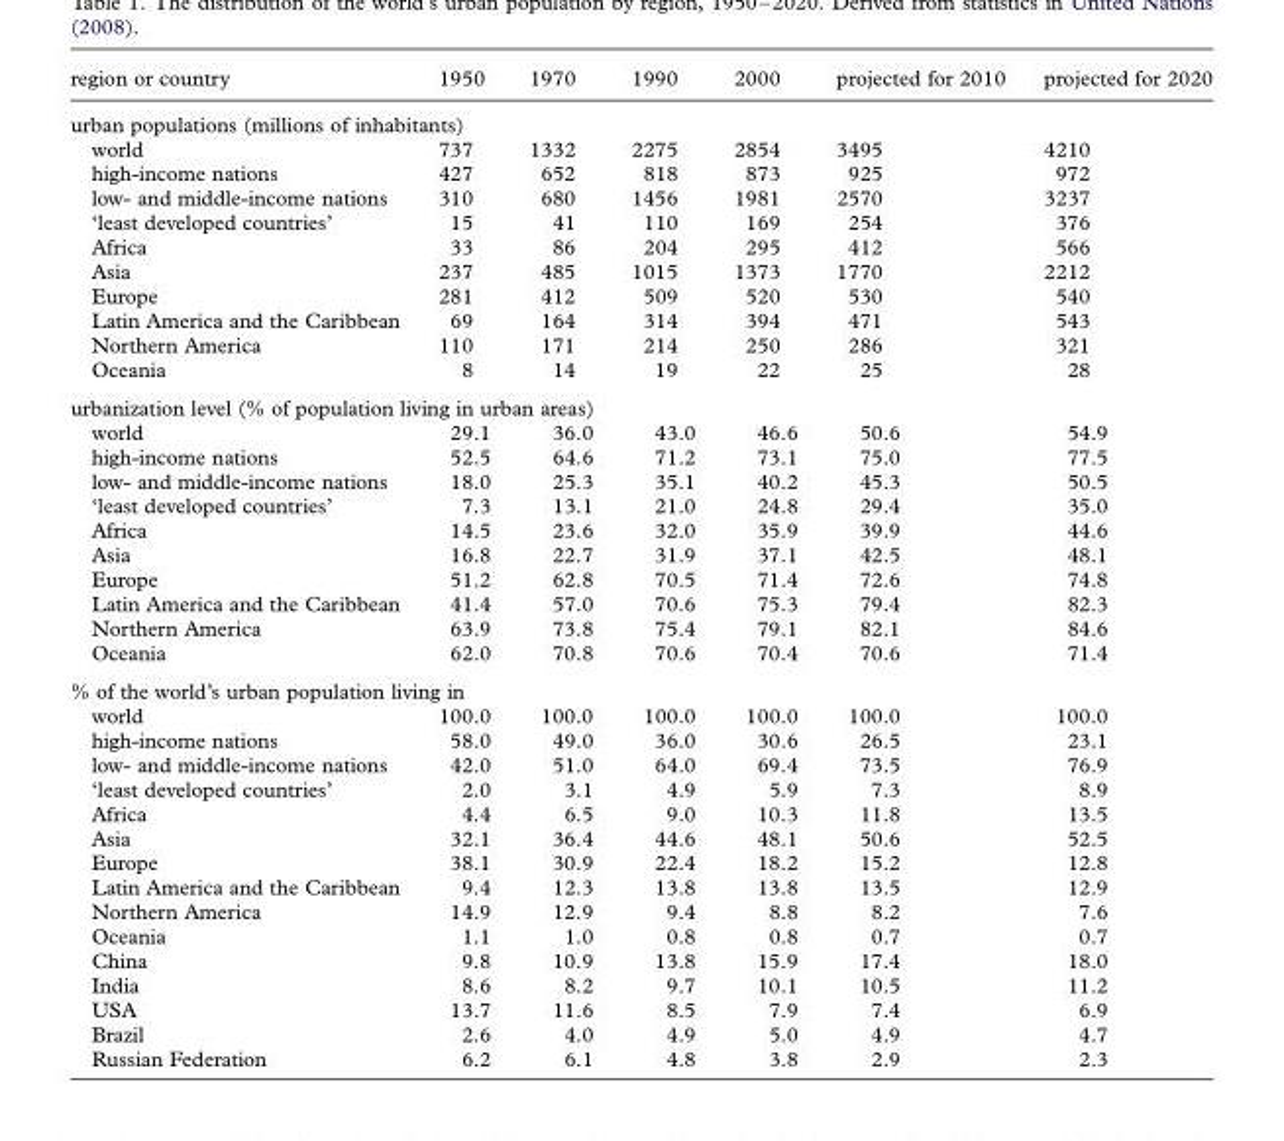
<table><thead><tr><td>region or country</td><td>1950</td><td>1970</td><td>1990</td><td>2000</td><td>projected for 2010</td><td>projected for 2020</td></tr></thead><tbody><tr><td colspan="7">urban populations (millions of inhabitants)</td></tr><tr><td>world</td><td>737</td><td>1332</td><td>2275</td><td>2854</td><td>3495</td><td>4210</td></tr><tr><td>high-income nations</td><td>427</td><td>652</td><td>818</td><td>873</td><td>925</td><td>972</td></tr><tr><td>low- and middle-income nations</td><td>310</td><td>680</td><td>1456</td><td>1981</td><td>2570</td><td>3237</td></tr><tr><td>‘least developed countries’</td><td>15</td><td>41</td><td>110</td><td>169</td><td>254</td><td>376</td></tr><tr><td>Africa</td><td>33</td><td>86</td><td>204</td><td>295</td><td>412</td><td>566</td></tr><tr><td>Asia</td><td>237</td><td>485</td><td>1015</td><td>1373</td><td>1770</td><td>2212</td></tr><tr><td>Europe</td><td>281</td><td>412</td><td>509</td><td>520</td><td>530</td><td>540</td></tr><tr><td>Latin America and the Caribbean</td><td>69</td><td>164</td><td>314</td><td>394</td><td>471</td><td>543</td></tr><tr><td>Northern America</td><td>110</td><td>171</td><td>214</td><td>250</td><td>286</td><td>321</td></tr><tr><td>Oceania</td><td>8</td><td>14</td><td>19</td><td>22</td><td>25</td><td>28</td></tr><tr><td colspan="7">urbanization level (% of population living in urban areas)</td></tr><tr><td>world</td><td>29.1</td><td>36.0</td><td>43.0</td><td>46.6</td><td>50.6</td><td>54.9</td></tr><tr><td>high-income nations</td><td>52.5</td><td>64.6</td><td>71.2</td><td>73.1</td><td>75.0</td><td>77.5</td></tr><tr><td>low- and middle-income nations</td><td>18.0</td><td>25.3</td><td>35.1</td><td>40.2</td><td>45.3</td><td>50.5</td></tr><tr><td>‘least developed countries’</td><td>7.3</td><td>13.1</td><td>21.0</td><td>24.8</td><td>29.4</td><td>35.0</td></tr><tr><td>Africa</td><td>14.5</td><td>23.6</td><td>32.0</td><td>35.9</td><td>39.9</td><td>44.6</td></tr><tr><td>Asia</td><td>16.8</td><td>22.7</td><td>31.9</td><td>37.1</td><td>42.5</td><td>48.1</td></tr><tr><td>Europe</td><td>51.2</td><td>62.8</td><td>70.5</td><td>71.4</td><td>72.6</td><td>74.8</td></tr><tr><td>Latin America and the Caribbean</td><td>41.4</td><td>57.0</td><td>70.6</td><td>75.3</td><td>79.4</td><td>82.3</td></tr><tr><td>Northern America</td><td>63.9</td><td>73.8</td><td>75.4</td><td>79.1</td><td>82.1</td><td>84.6</td></tr><tr><td>Oceania</td><td>62.0</td><td>70.8</td><td>70.6</td><td>70.4</td><td>70.6</td><td>71.4</td></tr><tr><td colspan="7">% of the world’s urban population living in</td></tr><tr><td>world</td><td>100.0</td><td>100.0</td><td>100.0</td><td>100.0</td><td>100.0</td><td>100.0</td></tr><tr><td>high-income nations</td><td>58.0</td><td>49.0</td><td>36.0</td><td>30.6</td><td>26.5</td><td>23.1</td></tr><tr><td>low- and middle-income nations</td><td>42.0</td><td>51.0</td><td>64.0</td><td>69.4</td><td>73.5</td><td>76.9</td></tr><tr><td>‘least developed countries’</td><td>2.0</td><td>3.1</td><td>4.9</td><td>5.9</td><td>7.3</td><td>8.9</td></tr><tr><td>Africa</td><td>4.4</td><td>6.5</td><td>9.0</td><td>10.3</td><td>11.8</td><td>13.5</td></tr><tr><td>Asia</td><td>32.1</td><td>36.4</td><td>44.6</td><td>48.1</td><td>50.6</td><td>52.5</td></tr><tr><td>Europe</td><td>38.1</td><td>30.9</td><td>22.4</td><td>18.2</td><td>15.2</td><td>12.8</td></tr><tr><td>Latin America and the Caribbean</td><td>9.4</td><td>12.3</td><td>13.8</td><td>13.8</td><td>13.5</td><td>12.9</td></tr><tr><td>Northern America</td><td>14.9</td><td>12.9</td><td>9.4</td><td>8.8</td><td>8.2</td><td>7.6</td></tr><tr><td>Oceania</td><td>1.1</td><td>1.0</td><td>0.8</td><td>0.8</td><td>0.7</td><td>0.7</td></tr><tr><td>China</td><td>9.8</td><td>10.9</td><td>13.8</td><td>15.9</td><td>17.4</td><td>18.0</td></tr><tr><td>India</td><td>8.6</td><td>8.2</td><td>9.7</td><td>10.1</td><td>10.5</td><td>11.2</td></tr><tr><td>USA</td><td>13.7</td><td>11.6</td><td>8.5</td><td>7.9</td><td>7.4</td><td>6.9</td></tr><tr><td>Brazil</td><td>2.6</td><td>4.0</td><td>4.9</td><td>5.0</td><td>4.9</td><td>4.7</td></tr><tr><td>Russian Federation</td><td>6.2</td><td>6.1</td><td>4.8</td><td>3.8</td><td>2.9</td><td>2.3</td></tr></tbody></table>